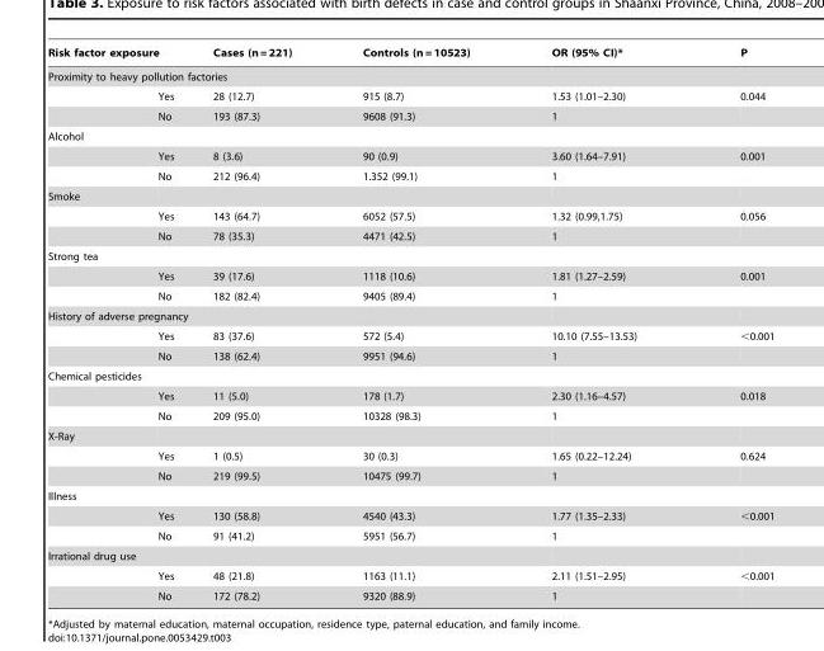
<table><thead><tr><td colspan="2">Risk factor exposure</td><td>Cases (n = 221)</td><td>Controls (n = 10523)</td><td>OR (95% CI)*</td><td>P</td></tr><tr><td colspan="6">Proximity to heavy pollution factories</td></tr><tr><td></td><td>Yes</td><td>28 (12.7)</td><td>915 (8.7)</td><td>1.53 (1.01–2.30)</td><td>0.044</td></tr></thead><tbody><tr><td></td><td>No</td><td>193 (87.3)</td><td>9608 (91.3)</td><td>1</td><td></td></tr><tr><td colspan="6">Alcohol</td></tr><tr><td></td><td>Yes</td><td>8 (3.6)</td><td>90 (0.9)</td><td>3.60 (1.64–7.91)</td><td>0.001</td></tr><tr><td></td><td>No</td><td>212 (96.4)</td><td>1.352 (99.1)</td><td>1</td><td></td></tr><tr><td colspan="6">Smoke</td></tr><tr><td></td><td>Yes</td><td>143 (64.7)</td><td>6052 (57.5)</td><td>1.32 (0.99,1.75)</td><td>0.056</td></tr><tr><td></td><td>No</td><td>78 (35.3)</td><td>4471 (42.5)</td><td>1</td><td></td></tr><tr><td colspan="6">Strong tea</td></tr><tr><td></td><td>Yes</td><td>39 (17.6)</td><td>1118 (10.6)</td><td>1.81 (1.27–2.59)</td><td>0.001</td></tr><tr><td></td><td>No</td><td>182 (82.4)</td><td>9405 (89.4)</td><td>1</td><td></td></tr><tr><td colspan="6">History of adverse pregnancy</td></tr><tr><td></td><td>Yes</td><td>83 (37.6)</td><td>572 (5.4)</td><td>10.10 (7.55–13.53)</td><td>&lt;0.001</td></tr><tr><td></td><td>No</td><td>138 (62.4)</td><td>9951 (94.6)</td><td>1</td><td></td></tr><tr><td colspan="6">Chemical pesticides</td></tr><tr><td></td><td>Yes</td><td>11 (5.0)</td><td>178 (1.7)</td><td>2.30 (1.16–4.57)</td><td>0.018</td></tr><tr><td></td><td>No</td><td>209 (95.0)</td><td>10328 (98.3)</td><td>1</td><td></td></tr><tr><td colspan="6">X-Ray</td></tr><tr><td></td><td>Yes</td><td>1 (0.5)</td><td>30 (0.3)</td><td>1.65 (0.22–12.24)</td><td>0.624</td></tr><tr><td></td><td>No</td><td>219 (99.5)</td><td>10475 (99.7)</td><td>1</td><td></td></tr><tr><td colspan="6">Illness</td></tr><tr><td></td><td>Yes</td><td>130 (58.8)</td><td>4540 (43.3)</td><td>1.77 (1.35–2.33)</td><td>&lt;0.001</td></tr><tr><td></td><td>No</td><td>91 (41.2)</td><td>5951 (56.7)</td><td>1</td><td></td></tr><tr><td colspan="6">Irrational drug use</td></tr><tr><td></td><td>Yes</td><td>48 (21.8)</td><td>1163 (11.1)</td><td>2.11 (1.51–2.95)</td><td>&lt;0.001</td></tr><tr><td></td><td>No</td><td>172 (78.2)</td><td>9320 (88.9)</td><td>1</td><td></td></tr></tbody></table>